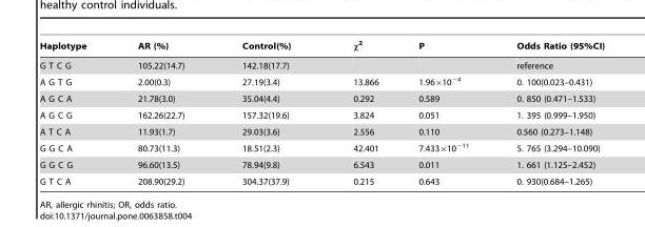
<table><thead><tr><td>Haplotype</td><td>AR (%)</td><td>Control(%)</td><td>χ<sup>2</sup></td><td>P</td><td>Odds Ratio (95%CI)</td></tr></thead><tbody><tr><td>G T C G</td><td>105.22(14.7)</td><td>142.18(17.7)</td><td></td><td></td><td>reference</td></tr><tr><td>A G T G</td><td>2.00(0.3)</td><td>27.19(3.4)</td><td>13.866</td><td>1.96×10<sup>−4</sup></td><td>0. 100(0.023–0.431)</td></tr><tr><td>A G C A</td><td>21.78(3.0)</td><td>35.04(4.4)</td><td>0.292</td><td>0.589</td><td>0. 850 (0.471–1.533)</td></tr><tr><td>A G C G</td><td>162.26(22.7)</td><td>157.32(19.6)</td><td>3.824</td><td>0.051</td><td>1. 395 (0.999–1.950)</td></tr><tr><td>A T C A</td><td>11.93(1.7)</td><td>29.03(3.6)</td><td>2.556</td><td>0.110</td><td>0.560 (0.273–1.148)</td></tr><tr><td>G G C A</td><td>80.73(11.3)</td><td>18.51(2.3)</td><td>42.401</td><td>7.433×10<sup>−11</sup></td><td>5. 765 (3.294–10.090)</td></tr><tr><td>G G C G</td><td>96.60(13.5)</td><td>78.94(9.8)</td><td>6.543</td><td>0.011</td><td>1. 661 (1.125–2.452)</td></tr><tr><td>G T C A</td><td>208.90(29.2)</td><td>304.37(37.9)</td><td>0.215</td><td>0.643</td><td>0. 930(0.684–1.265)</td></tr></tbody></table>